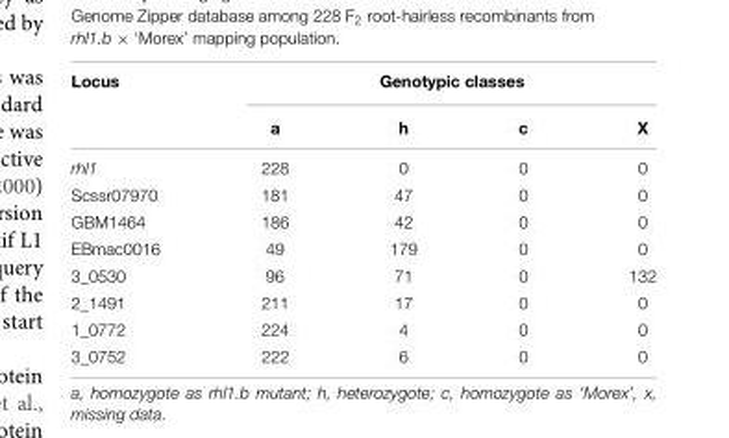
<table><thead><tr><td rowspan="2">Locus</td><td colspan="4">Genotypic classes</td></tr><tr><td>a</td><td>h</td><td>c</td><td>X</td></tr></thead><tbody><tr><td>rhl1</td><td>228</td><td>0</td><td>0</td><td>0</td></tr><tr><td>Scssr07970</td><td>181</td><td>47</td><td>0</td><td>0</td></tr><tr><td>GBM1464</td><td>186</td><td>42</td><td>0</td><td>0</td></tr><tr><td>EBmac0016</td><td>49</td><td>179</td><td>0</td><td>0</td></tr><tr><td>3_0530</td><td>96</td><td>71</td><td>0</td><td>132</td></tr><tr><td>2_1491</td><td>211</td><td>17</td><td>0</td><td>0</td></tr><tr><td>1_0772</td><td>224</td><td>4</td><td>0</td><td>0</td></tr><tr><td>3_0752</td><td>222</td><td>6</td><td>0</td><td>0</td></tr></tbody></table>